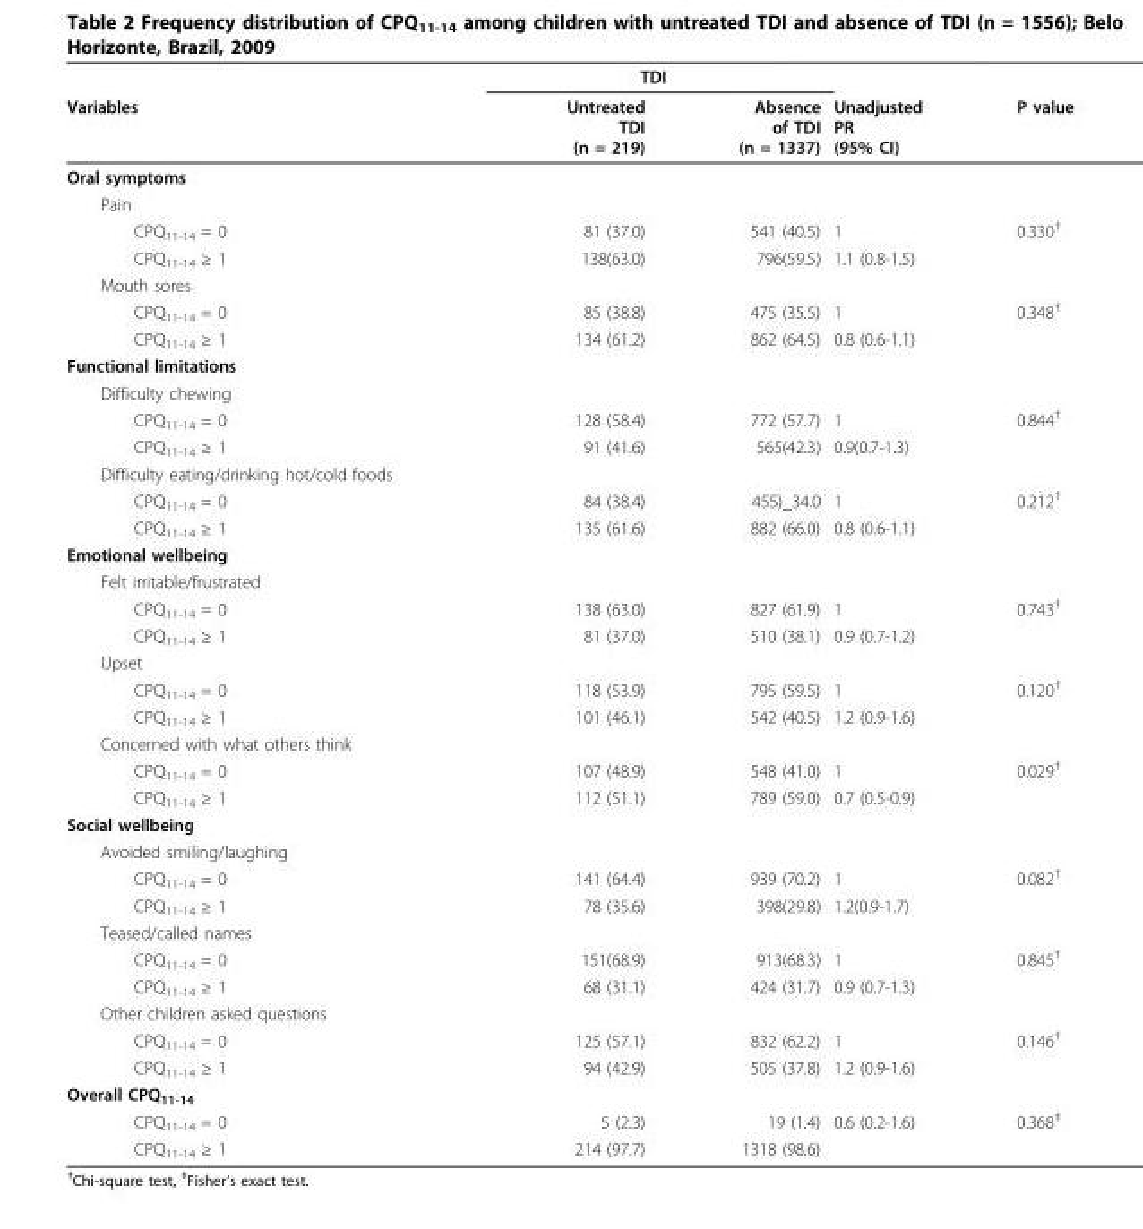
<table><thead><tr><td rowspan="2">Variables</td><td colspan="2">TDI</td><td rowspan="2">Unadjusted PR (95% CI)</td><td rowspan="2">P value</td></tr><tr><td>Untreated TDI (n = 219)</td><td>Absence of TDI (n = 1337)</td></tr></thead><tbody><tr><td colspan="5">Oral symptoms</td></tr><tr><td colspan="5">Pain</td></tr><tr><td>CPQ<sub>11-14</sub> = 0</td><td>81 (37.0)</td><td>541 (40.5)</td><td>1</td><td>0.330<sup>†</sup></td></tr><tr><td>CPQ<sub>11-14</sub> ≥ 1</td><td>138(63.0)</td><td>796(59.5)</td><td>1.1 (0.8-1.5)</td><td></td></tr><tr><td colspan="5">Mouth sores</td></tr><tr><td>CPQ<sub>11-14</sub> = 0</td><td>85 (38.8)</td><td>475 (35.5)</td><td>1</td><td>0.348<sup>†</sup></td></tr><tr><td>CPQ<sub>11-14</sub> ≥ 1</td><td>134 (61.2)</td><td>862 (64.5)</td><td>0.8 (0.6-1.1)</td><td></td></tr><tr><td colspan="5">Functional limitations</td></tr><tr><td colspan="5">Difficulty chewing</td></tr><tr><td>CPQ<sub>11-14</sub> = 0</td><td>128 (58.4)</td><td>772 (57.7)</td><td>1</td><td>0.844<sup>†</sup></td></tr><tr><td>CPQ<sub>11-14</sub> ≥ 1</td><td>91 (41.6)</td><td>565(42.3)</td><td>0.9(0.7-1.3)</td><td></td></tr><tr><td colspan="5">Difficulty eating/drinking hot/cold foods</td></tr><tr><td>CPQ<sub>11-14</sub> = 0</td><td>84 (38.4)</td><td>455)_34.0</td><td>1</td><td>0.212<sup>†</sup></td></tr><tr><td>CPQ<sub>11-14</sub> ≥ 1</td><td>135 (61.6)</td><td>882 (66.0)</td><td>0.8 (0.6-1.1)</td><td></td></tr><tr><td colspan="5">Emotional wellbeing</td></tr><tr><td colspan="5">Felt irritable/frustrated</td></tr><tr><td>CPQ<sub>11-14</sub> = 0</td><td>138 (63.0)</td><td>827 (61.9)</td><td>1</td><td>0.743<sup>†</sup></td></tr><tr><td>CPQ<sub>11-14</sub> ≥ 1</td><td>81 (37.0)</td><td>510 (38.1)</td><td>0.9 (0.7-1.2)</td><td></td></tr><tr><td colspan="5">Upset</td></tr><tr><td>CPQ<sub>11-14</sub> = 0</td><td>118 (53.9)</td><td>795 (59.5)</td><td>1</td><td>0.120<sup>†</sup></td></tr><tr><td>CPQ<sub>11-14</sub> ≥ 1</td><td>101 (46.1)</td><td>542 (40.5)</td><td>1.2 (0.9-1.6)</td><td></td></tr><tr><td colspan="5">Concerned with what others think</td></tr><tr><td>CPQ<sub>11-14</sub> = 0</td><td>107 (48.9)</td><td>548 (41.0)</td><td>1</td><td>0.029<sup>†</sup></td></tr><tr><td>CPQ<sub>11-14</sub> ≥ 1</td><td>112 (51.1)</td><td>789 (59.0)</td><td>0.7 (0.5-0.9)</td><td></td></tr><tr><td colspan="5">Social wellbeing</td></tr><tr><td colspan="5">Avoided smiling/laughing</td></tr><tr><td>CPQ<sub>11-14</sub> = 0</td><td>141 (64.4)</td><td>939 (70.2)</td><td>1</td><td>0.082<sup>†</sup></td></tr><tr><td>CPQ<sub>11-14</sub> ≥ 1</td><td>78 (35.6)</td><td>398(29.8)</td><td>1.2(0.9-1.7)</td><td></td></tr><tr><td colspan="5">Teased/called names</td></tr><tr><td>CPQ<sub>11-14</sub> = 0</td><td>151(68.9)</td><td>913(68.3)</td><td>1</td><td>0.845<sup>†</sup></td></tr><tr><td>CPQ<sub>11-14</sub> ≥ 1</td><td>68 (31.1)</td><td>424 (31.7)</td><td>0.9 (0.7-1.3)</td><td></td></tr><tr><td colspan="5">Other children asked questions</td></tr><tr><td>CPQ<sub>11-14</sub> = 0</td><td>125 (57.1)</td><td>832 (62.2)</td><td>1</td><td>0.146<sup>†</sup></td></tr><tr><td>CPQ<sub>11-14</sub> ≥ 1</td><td>94 (42.9)</td><td>505 (37.8)</td><td>1.2 (0.9-1.6)</td><td></td></tr><tr><td colspan="5">Overall CPQ<sub>11-14</sub></td></tr><tr><td>CPQ<sub>11-14</sub> = 0</td><td>5 (2.3)</td><td>19 (1.4)</td><td>0.6 (0.2-1.6)</td><td>0.368<sup>‡</sup></td></tr><tr><td>CPQ<sub>11-14</sub> ≥ 1</td><td>214 (97.7)</td><td>1318 (98.6)</td><td></td><td></td></tr></tbody></table>